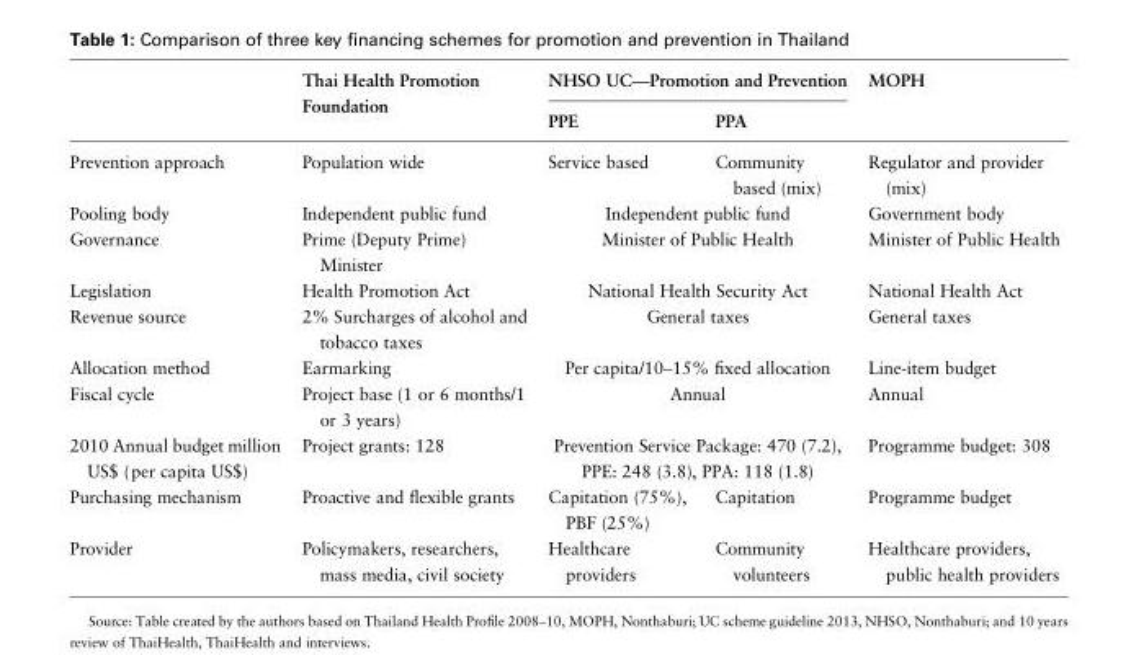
<table><thead><tr><td rowspan="2"></td><td rowspan="2">Thai Health Promotion Foundation</td><td colspan="2">NHSO UC—Promotion and Prevention</td><td rowspan="2">MOPH</td></tr><tr><td>PPE</td><td>PPA</td></tr></thead><tbody><tr><td>Prevention approach</td><td>Population wide</td><td>Service based</td><td>Community based (mix)</td><td>Regulator and provider (mix)</td></tr><tr><td>Pooling body</td><td>Independent public fund</td><td colspan="2">Independent public fund</td><td>Government body</td></tr><tr><td>Governance</td><td>Prime (Deputy Prime) Minister</td><td colspan="2">Minister of Public Health</td><td>Minister of Public Health</td></tr><tr><td>Legislation</td><td>Health Promotion Act</td><td colspan="2">National Health Security Act</td><td>National Health Act</td></tr><tr><td>Revenue source</td><td>2% Surcharges of alcohol and tobacco taxes</td><td colspan="2">General taxes</td><td>General taxes</td></tr><tr><td>Allocation method</td><td>Earmarking</td><td colspan="2">Per capita/10–15% fixed allocation</td><td>Line-item budget</td></tr><tr><td>Fiscal cycle</td><td>Project base (1 or 6 months/1 or 3 years)</td><td colspan="2">Annual</td><td>Annual</td></tr><tr><td>2010 Annual budget million US$ (per capita US$)</td><td>Project grants: 128</td><td colspan="2">Prevention Service Package: 470 (7.2), PPE: 248 (3.8), PPA: 118 (1.8)</td><td>Programme budget: 308</td></tr><tr><td>Purchasing mechanism</td><td>Proactive and flexible grants</td><td>Capitation (75%), PBF (25%)</td><td>Capitation</td><td>Programme budget</td></tr><tr><td>Provider</td><td>Policymakers, researchers, mass media, civil society</td><td>Healthcare providers</td><td>Community volunteers</td><td>Healthcare providers, public health providers</td></tr></tbody></table>